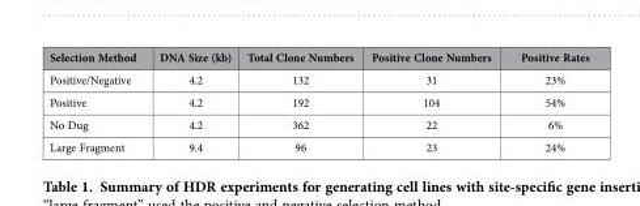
<table><thead><tr><td>Selection Method</td><td>DNA Size (kb)</td><td>Total Clone Numbers</td><td>Positive Clone Numbers</td><td>Positive Rates</td></tr></thead><tbody><tr><td>Positive/Negative</td><td>4.2</td><td>132</td><td>31</td><td>23%</td></tr><tr><td>Positive</td><td>4.2</td><td>192</td><td>104</td><td>54%</td></tr><tr><td>No Dug</td><td>4.2</td><td>362</td><td>22</td><td>6%</td></tr><tr><td>Large Fragment</td><td>9.4</td><td>96</td><td>23</td><td>24%</td></tr></tbody></table>